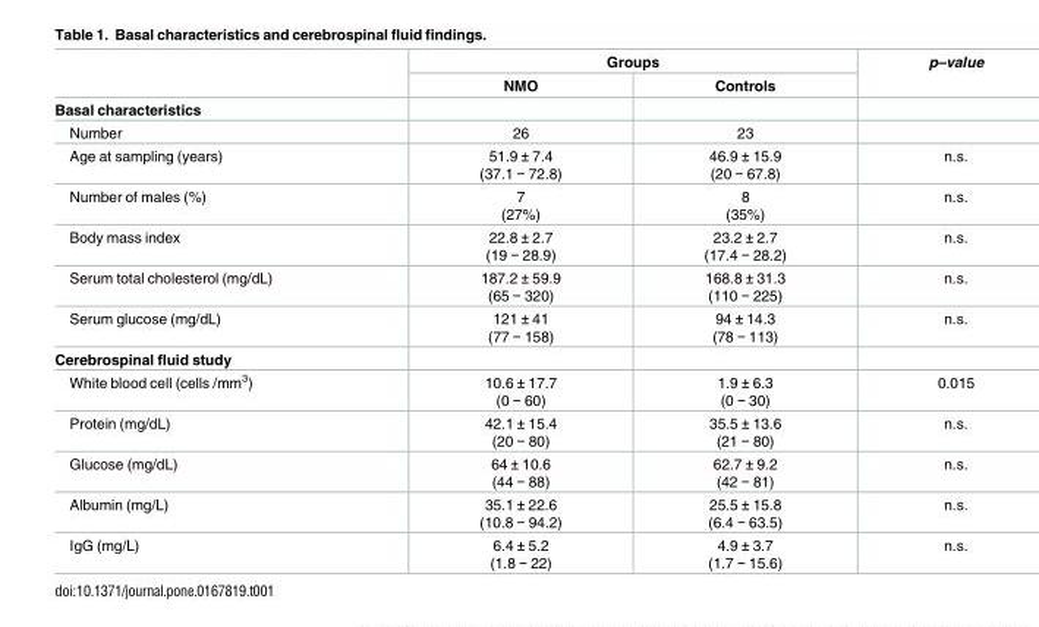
<table><thead><tr><td rowspan="2"></td><td colspan="2">Groups</td><td rowspan="2">p–value</td></tr><tr><td>NMO</td><td>Controls</td></tr></thead><tbody><tr><td colspan="4">Basal characteristics</td></tr><tr><td>Number</td><td>26</td><td>23</td><td></td></tr><tr><td>Age at sampling (years)</td><td>51.9 ± 7.4 (37.1 − 72.8)</td><td>46.9 ± 15.9 (20 − 67.8)</td><td>n.s.</td></tr><tr><td>Number of males (%)</td><td>7 (27%)</td><td>8 (35%)</td><td>n.s.</td></tr><tr><td>Body mass index</td><td>22.8 ± 2.7 (19 − 28.9)</td><td>23.2 ± 2.7 (17.4 − 28.2)</td><td>n.s.</td></tr><tr><td>Serum total cholesterol (mg/dL)</td><td>187.2 ± 59.9 (65 − 320)</td><td>168.8 ± 31.3 (110 − 225)</td><td>n.s.</td></tr><tr><td>Serum glucose (mg/dL)</td><td>121 ± 41 (77 − 158)</td><td>94 ± 14.3 (78 − 113)</td><td>n.s.</td></tr><tr><td colspan="4">Cerebrospinal fluid study</td></tr><tr><td>White blood cell (cells /mm<sup>3</sup>)</td><td>10.6 ± 17.7 (0 − 60)</td><td>1.9 ± 6.3 (0 − 30)</td><td>0.015</td></tr><tr><td>Protein (mg/dL)</td><td>42.1 ± 15.4 (20 − 80)</td><td>35.5 ± 13.6 (21 − 80)</td><td>n.s.</td></tr><tr><td>Glucose (mg/dL)</td><td>64 ± 10.6 (44 − 88)</td><td>62.7 ± 9.2 (42 − 81)</td><td>n.s.</td></tr><tr><td>Albumin (mg/L)</td><td>35.1 ± 22.6 (10.8 − 94.2)</td><td>25.5 ± 15.8 (6.4 − 63.5)</td><td>n.s.</td></tr><tr><td>IgG (mg/L)</td><td>6.4 ± 5.2 (1.8 − 22)</td><td>4.9 ± 3.7 (1.7 − 15.6)</td><td>n.s.</td></tr></tbody></table>